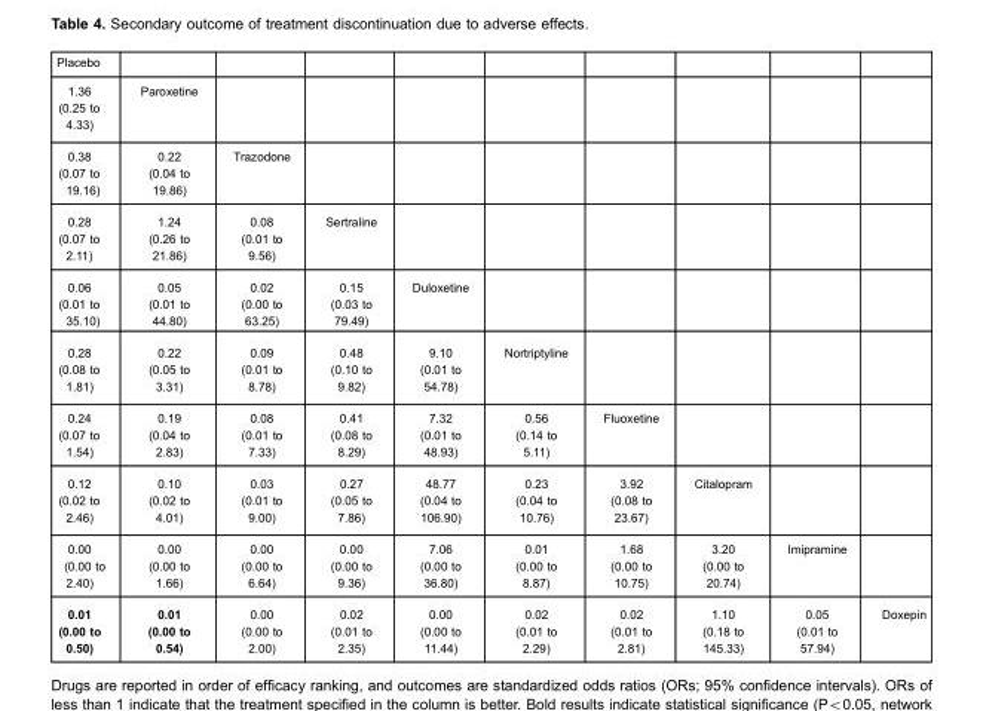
<table><tbody><tr><td colspan="10">Placebo</td></tr><tr><td>1.36 (0.25 to 4.33)</td><td>Paroxetine</td><td></td><td></td><td></td><td></td><td></td><td></td><td></td><td></td></tr><tr><td>0.38 (0.07 to 19.16)</td><td>0.22 (0.04 to 19.86)</td><td>Trazodone</td><td></td><td></td><td></td><td></td><td></td><td></td><td></td></tr><tr><td>0.28 (0.07 to 2.11)</td><td>1.24 (0.26 to 21.86)</td><td>0.08 (0.01 to 9.56)</td><td>Sertraline</td><td></td><td></td><td></td><td></td><td></td><td></td></tr><tr><td>0.06 (0.01 to 35.10)</td><td>0.05 (0.01 to 44.80)</td><td>0.02 (0.00 to 63.25)</td><td>0.15 (0.03 to 79.49)</td><td>Duloxetine</td><td></td><td></td><td></td><td></td><td></td></tr><tr><td>0.28 (0.08 to 1.81)</td><td>0.22 (0.05 to 3.31)</td><td>0.09 (0.01 to 8.78)</td><td>0.48 (0.10 to 9.82)</td><td>9.10 (0.01 to 54.78)</td><td>Nortriptyline</td><td></td><td></td><td></td><td></td></tr><tr><td>0.24 (0.07 to 1.54)</td><td>0.19 (0.04 to 2.83)</td><td>0.08 (0.01 to 7.33)</td><td>0.41 (0.08 to 8.29)</td><td>7.32 (0.01 to 48.93)</td><td>0.56 (0.14 to 5.11)</td><td>Fluoxetine</td><td></td><td></td><td></td></tr><tr><td>0.12 (0.02 to 2.46)</td><td>0.10 (0.02 to 4.01)</td><td>0.03 (0.01 to 9.00)</td><td>0.27 (0.05 to 7.86)</td><td>48.77 (0.04 to 106.90)</td><td>0.23 (0.04 to 10.76)</td><td>3.92 (0.08 to 23.67)</td><td>Citalopram</td><td></td><td></td></tr><tr><td>0.00 (0.00 to 2.40)</td><td>0.00 (0.00 to 1.66)</td><td>0.00 (0.00 to 6.64)</td><td>0.00 (0.00 to 9.36)</td><td>7.06 (0.00 to 36.80)</td><td>0.01 (0.00 to 8.87)</td><td>1.68 (0.00 to 10.75)</td><td>3.20 (0.00 to 20.74)</td><td>Imipramine</td><td></td></tr><tr><td>0.01 (0.00 to 0.50)</td><td>0.01 (0.00 to 0.54)</td><td>0.00 (0.00 to 2.00)</td><td>0.02 (0.01 to 2.35)</td><td>0.00 (0.00 to 11.44)</td><td>0.02 (0.01 to 2.29)</td><td>0.02 (0.01 to 2.81)</td><td>1.10 (0.18 to 145.33)</td><td>0.05 (0.01 to 57.94)</td><td>Doxepin</td></tr></tbody></table>